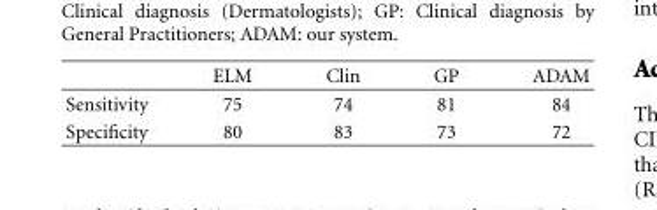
<table><thead><tr><td></td><td>ELM</td><td>Clin</td><td>GP</td><td>ADAM</td></tr></thead><tbody><tr><td>Sensitivity</td><td>75</td><td>74</td><td>81</td><td>84</td></tr><tr><td>Specificity</td><td>80</td><td>83</td><td>73</td><td>72</td></tr></tbody></table>